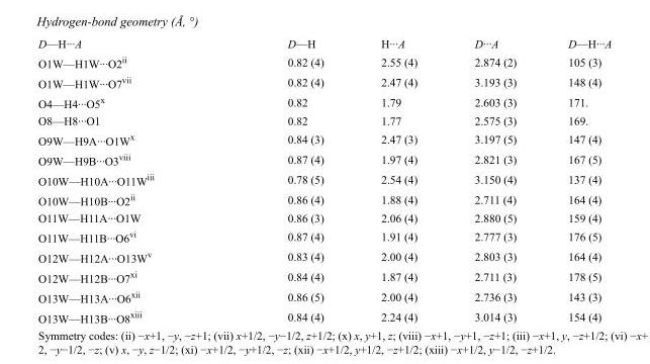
<table><tbody><tr><td>D—H···A</td><td>D—H</td><td>H···A</td><td>D···A</td><td>D—H···A</td></tr><tr><td>O1W—H1W···O2<sup>ii</sup></td><td>0.82 (4)</td><td>2.55 (4)</td><td>2.874 (2)</td><td>105 (3)</td></tr><tr><td>O1W—H1W···O7<sup>vii</sup></td><td>0.82 (4)</td><td>2.47 (4)</td><td>3.193 (3)</td><td>148 (4)</td></tr><tr><td>O4—H4···O5<sup>x</sup></td><td>0.82</td><td>1.79</td><td>2.603 (3)</td><td>171.</td></tr><tr><td>O8—H8···O1</td><td>0.82</td><td>1.77</td><td>2.575 (3)</td><td>169.</td></tr><tr><td>O9W—H9A···O1W<sup>x</sup></td><td>0.84 (3)</td><td>2.47 (3)</td><td>3.197 (5)</td><td>147 (4)</td></tr><tr><td>O9W—H9B···O3<sup>viii</sup></td><td>0.87 (4)</td><td>1.97 (4)</td><td>2.821 (3)</td><td>167 (5)</td></tr><tr><td>O10W—H10A···O11W<sup>iii</sup></td><td>0.78 (5)</td><td>2.54 (4)</td><td>3.150 (4)</td><td>137 (4)</td></tr><tr><td>O10W—H10B···O2<sup>ii</sup></td><td>0.86 (4)</td><td>1.88 (4)</td><td>2.711 (4)</td><td>164 (4)</td></tr><tr><td>O11W—H11A···O1W</td><td>0.86 (3)</td><td>2.06 (4)</td><td>2.880 (5)</td><td>159 (4)</td></tr><tr><td>O11W—H11B···O6<sup>vi</sup></td><td>0.87 (4)</td><td>1.91 (4)</td><td>2.777 (3)</td><td>176 (5)</td></tr><tr><td>O12W—H12A···O13W<sup>v</sup></td><td>0.83 (4)</td><td>2.00 (4)</td><td>2.803 (3)</td><td>164 (4)</td></tr><tr><td>O12W—H12B···O7<sup>xi</sup></td><td>0.84 (4)</td><td>1.87 (4)</td><td>2.711 (3)</td><td>178 (5)</td></tr><tr><td>O13W—H13A···O6<sup>xii</sup></td><td>0.86 (5)</td><td>2.00 (4)</td><td>2.736 (3)</td><td>143 (3)</td></tr><tr><td>O13W—H13B···O8<sup>xiii</sup></td><td>0.84 (4)</td><td>2.24 (4)</td><td>3.014 (3)</td><td>154 (4)</td></tr></tbody></table>